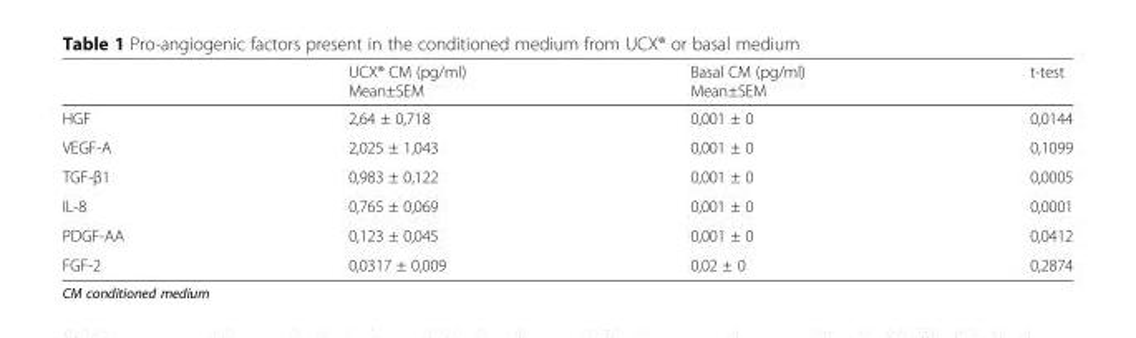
<table><thead><tr><td></td><td>UCX® CM (pg/ml) Mean±SEM</td><td>Basal CM (pg/ml) Mean±SEM</td><td>t-test</td></tr></thead><tbody><tr><td>HGF</td><td>2,64 ± 0,718</td><td>0,001 ± 0</td><td>0,0144</td></tr><tr><td>VEGF-A</td><td>2,025 ± 1,043</td><td>0,001 ± 0</td><td>0,1099</td></tr><tr><td>TGF-β1</td><td>0,983 ± 0,122</td><td>0,001 ± 0</td><td>0,0005</td></tr><tr><td>IL-8</td><td>0,765 ± 0,069</td><td>0,001 ± 0</td><td>0,0001</td></tr><tr><td>PDGF-AA</td><td>0,123 ± 0,045</td><td>0,001 ± 0</td><td>0,0412</td></tr><tr><td>FGF-2</td><td>0,0317 ± 0,009</td><td>0,02 ± 0</td><td>0,2874</td></tr></tbody></table>